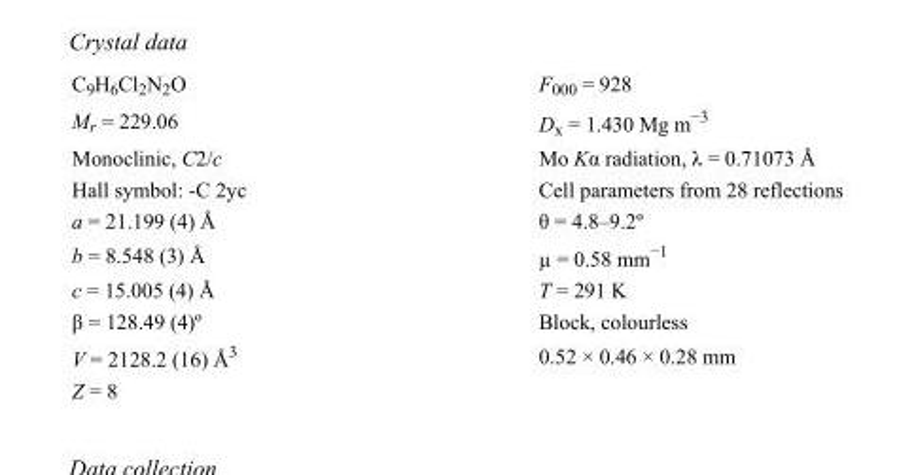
<table><tbody><tr><td>C<sub>9</sub>H<sub>6</sub>Cl<sub>2</sub>N<sub>2</sub>O</td><td>F000 = 928</td></tr><tr><td>M<sub>r</sub> = 229.06</td><td>D<sub>x</sub> = 1.430 Mg m<sup>−3</sup></td></tr><tr><td>Monoclinic, C2/c</td><td>Mo Kα radiation, λ = 0.71073 Å</td></tr><tr><td>Hall symbol: -C 2yc</td><td>Cell parameters from 28 reflections</td></tr><tr><td>a = 21.199 (4) Å</td><td>θ = 4.8–9.2º</td></tr><tr><td>b = 8.548 (3) Å</td><td>µ = 0.58 mm<sup>−1</sup></td></tr><tr><td>c = 15.005 (4) Å</td><td>T = 291 K</td></tr><tr><td>β = 128.49 (4)º</td><td>Block, colourless</td></tr><tr><td>V = 2128.2 (16) Å<sup>3</sup></td><td>0.52 × 0.46 × 0.28 mm</td></tr><tr><td>Z = 8</td><td></td></tr></tbody></table>